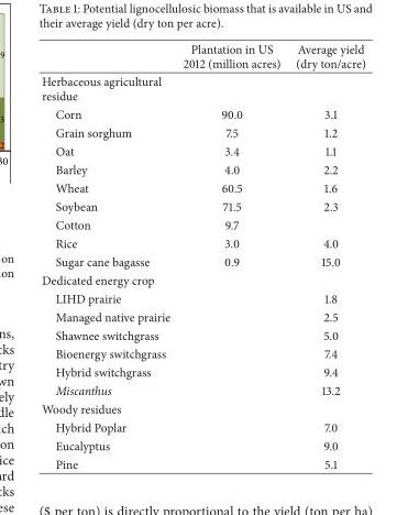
<table><thead><tr><td></td><td>Plantation in US 2012 (million acres)</td><td>Average yield (dry ton/acre)</td></tr></thead><tbody><tr><td colspan="3">Herbaceous agricultural residue</td></tr><tr><td>Corn</td><td>90.0</td><td>3.1</td></tr><tr><td>Grain sorghum</td><td>7.5</td><td>1.2</td></tr><tr><td>Oat</td><td>3.4</td><td>1.1</td></tr><tr><td>Barley</td><td>4.0</td><td>2.2</td></tr><tr><td>Wheat</td><td>60.5</td><td>1.6</td></tr><tr><td>Soybean</td><td>71.5</td><td>2.3</td></tr><tr><td>Cotton</td><td>9.7</td><td></td></tr><tr><td>Rice</td><td>3.0</td><td>4.0</td></tr><tr><td>Sugar cane bagasse</td><td>0.9</td><td>15.0</td></tr><tr><td colspan="3">Dedicated energy crop</td></tr><tr><td>LIHD prairie</td><td></td><td>1.8</td></tr><tr><td>Managed native prairie</td><td></td><td>2.5</td></tr><tr><td>Shawnee switchgrass</td><td></td><td>5.0</td></tr><tr><td>Bioenergy switchgrass</td><td></td><td>7.4</td></tr><tr><td>Hybrid switchgrass</td><td></td><td>9.4</td></tr><tr><td>Miscanthus</td><td></td><td>13.2</td></tr><tr><td colspan="3">Woody residues</td></tr><tr><td>Hybrid Poplar</td><td></td><td>7.0</td></tr><tr><td>Eucalyptus</td><td></td><td>9.0</td></tr><tr><td>Pine</td><td></td><td>5.1</td></tr></tbody></table>